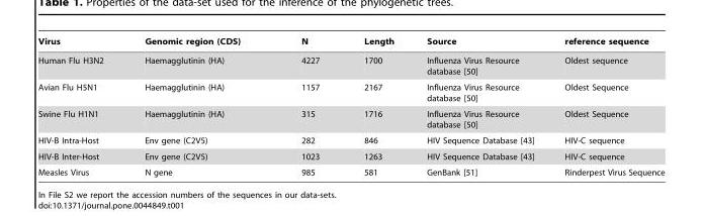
<table><thead><tr><td>Virus</td><td>Genomic region (CDS)</td><td>N</td><td>Length</td><td>Source</td><td>reference sequence</td></tr></thead><tbody><tr><td>Human Flu H3N2</td><td>Haemagglutinin (HA)</td><td>4227</td><td>1700</td><td>Influenza Virus Resource database [50]</td><td>Oldest sequence</td></tr><tr><td>Avian Flu H5N1</td><td>Haemagglutinin (HA)</td><td>1157</td><td>2167</td><td>Influenza Virus Resource database [50]</td><td>Oldest Sequence</td></tr><tr><td>Swine Flu H1N1</td><td>Haemagglutinin (HA)</td><td>315</td><td>1716</td><td>Influenza Virus Resource database [50]</td><td>Oldest Sequence</td></tr><tr><td>HIV-B Intra-Host</td><td>Env gene (C2V5)</td><td>282</td><td>846</td><td>HIV Sequence Database [43]</td><td>HIV-C sequence</td></tr><tr><td>HIV-B Inter-Host</td><td>Env gene (C2V5)</td><td>1023</td><td>1263</td><td>HIV Sequence Database [43]</td><td>HIV-C sequence</td></tr><tr><td>Measles Virus</td><td>N gene</td><td>985</td><td>581</td><td>GenBank [51]</td><td>Rinderpest Virus Sequence</td></tr></tbody></table>